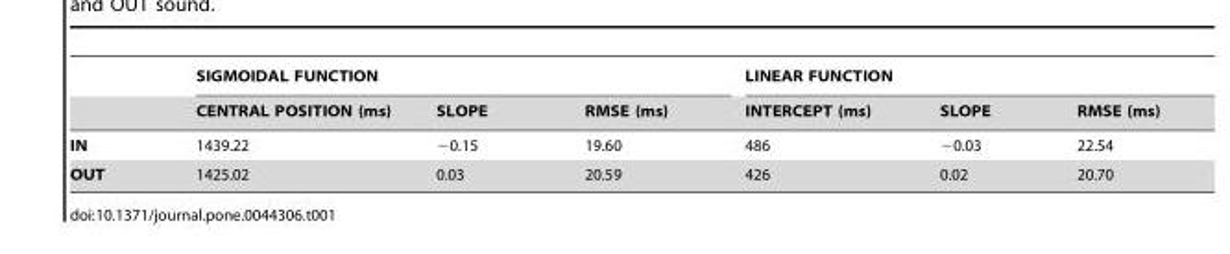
<table><thead><tr><td rowspan="2"></td><td colspan="3">SIGMOIDAL FUNCTION</td><td colspan="3">LINEAR FUNCTION</td></tr><tr><td>CENTRAL POSITION (ms)</td><td>SLOPE</td><td>RMSE (ms)</td><td>INTERCEPT (ms)</td><td>SLOPE</td><td>RMSE (ms)</td></tr></thead><tbody><tr><td>IN</td><td>1439.22</td><td>−0.15</td><td>19.60</td><td>486</td><td>−0.03</td><td>22.54</td></tr><tr><td>OUT</td><td>1425.02</td><td>0.03</td><td>20.59</td><td>426</td><td>0.02</td><td>20.70</td></tr></tbody></table>